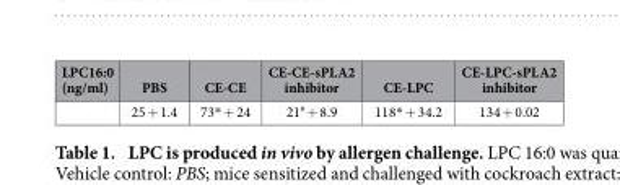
<table><thead><tr><td>LPC16:0 (ng/ml)</td><td>PBS</td><td>CE-CE</td><td>CE-CE-sPLA2 inhibitor</td><td>CE-LPC</td><td>CE-LPC-sPLA2 inhibitor</td></tr></thead><tbody><tr><td></td><td>25 + 1.4</td><td>73* + 24</td><td>21# + 8.9</td><td>118* + 34.2</td><td>134 + 0.02</td></tr></tbody></table>